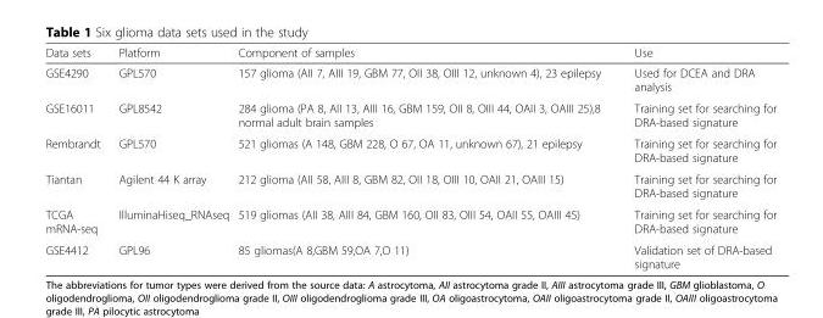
<table><thead><tr><td>Data sets</td><td>Platform</td><td>Component of samples</td><td>Use</td></tr></thead><tbody><tr><td>GSE4290</td><td>GPL570</td><td>157 glioma (AII 7, AIII 19, GBM 77, OII 38, OIII 12, unknown 4), 23 epilepsy</td><td>Used for DCEA and DRA analysis</td></tr><tr><td>GSE16011</td><td>GPL8542</td><td>284 glioma (PA 8, AII 13, AIII 16, GBM 159, OII 8, OIII 44, OAII 3, OAIII 25),8 normal adult brain samples</td><td>Training set for searching for DRA-based signature</td></tr><tr><td>Rembrandt</td><td>GPL570</td><td>521 gliomas (A 148, GBM 228, O 67, OA 11, unknown 67), 21 epilepsy</td><td>Training set for searching for DRA-based signature</td></tr><tr><td>Tiantan</td><td>Agilent 44 K array</td><td>212 glioma (AII 58, AIII 8, GBM 82, OII 18, OIII 10, OAII 21, OAIII 15)</td><td>Training set for searching for DRA-based signature</td></tr><tr><td>TCGA mRNA-seq</td><td>IlluminaHiseq_RNAseq</td><td>519 gliomas (AII 38, AIII 84, GBM 160, OII 83, OIII 54, OAII 55, OAIII 45)</td><td>Training set for searching for DRA-based signature</td></tr><tr><td>GSE4412</td><td>GPL96</td><td>85 gliomas(A 8,GBM 59,OA 7,O 11)</td><td>Validation set of DRA-based signature</td></tr></tbody></table>